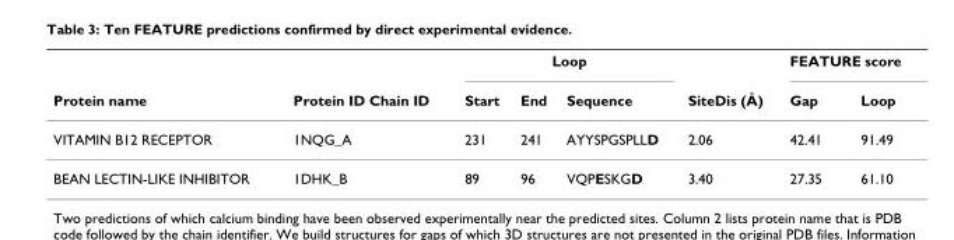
<table><thead><tr><td rowspan="2">Protein name</td><td rowspan="2">Protein ID Chain ID</td><td colspan="3">Loop</td><td rowspan="2">SiteDis (Å)</td><td colspan="2">FEATURE score</td></tr><tr><td>Start</td><td>End</td><td>Sequence</td><td>Gap</td><td>Loop</td></tr></thead><tbody><tr><td>VITAMIN B12 RECEPTOR</td><td>1NQG_A</td><td>231</td><td>241</td><td>AYYSPGSPLLD</td><td>2.06</td><td>42.41</td><td>91.49</td></tr><tr><td>BEAN LECTIN-LIKE INHIBITOR</td><td>1DHK_B</td><td>89</td><td>96</td><td>VQPESKGD</td><td>3.40</td><td>27.35</td><td>61.10</td></tr></tbody></table>